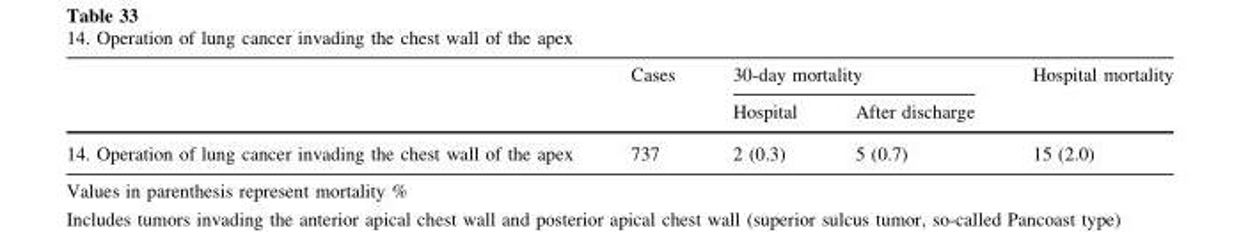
<table><thead><tr><td rowspan="2"></td><td rowspan="2">Cases</td><td colspan="2">30-day mortality</td><td rowspan="2">Hospital mortality</td></tr><tr><td>Hospital</td><td>After discharge</td></tr></thead><tbody><tr><td>14. Operation of lung cancer invading the chest wall of the apex</td><td>737</td><td>2 (0.3)</td><td>5 (0.7)</td><td>15 (2.0)</td></tr></tbody></table>